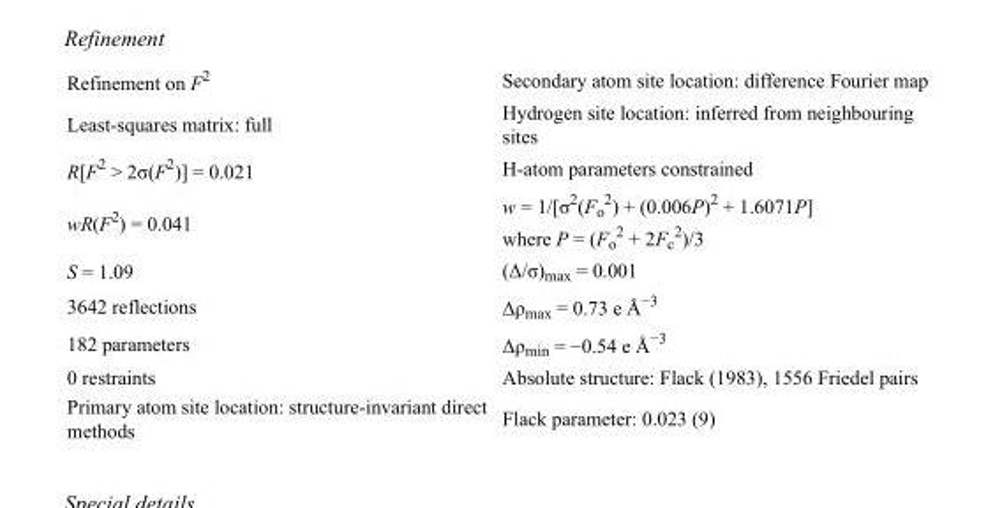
<table><tbody><tr><td>Refinement on F<sup>2</sup></td><td>Secondary atom site location: difference Fourier map</td></tr><tr><td>Least-squares matrix: full</td><td>Hydrogen site location: inferred from neighbouring sites</td></tr><tr><td>R[F<sup>2</sup> &gt; 2σ(F<sup>2</sup>)] = 0.021</td><td>H-atom parameters constrained</td></tr><tr><td>wR(F<sup>2</sup>) = 0.041</td><td>w = 1/[σ<sup>2</sup>(F<sub>o</sub> <sup>2</sup>) + (0.006P)<sup>2</sup> + 1.6071P] where P = (F<sub>o</sub> <sup>2</sup> + 2F<sub>c</sub> <sup>2</sup>)/3</td></tr><tr><td>S = 1.09</td><td>(Δ/σ)<sub>max</sub> = 0.001</td></tr><tr><td>3642 reflections</td><td>Δρ<sub>max</sub> = 0.73 e Å<sup>−3</sup></td></tr><tr><td>182 parameters</td><td>Δρ<sub>min</sub> = −0.54 e Å<sup>−3</sup></td></tr><tr><td>0 restraints</td><td>Absolute structure: Flack (1983), 1556 Friedel pairs</td></tr><tr><td>Primary atom site location: structure-invariant direct methods</td><td>Flack parameter: 0.023 (9)</td></tr></tbody></table>